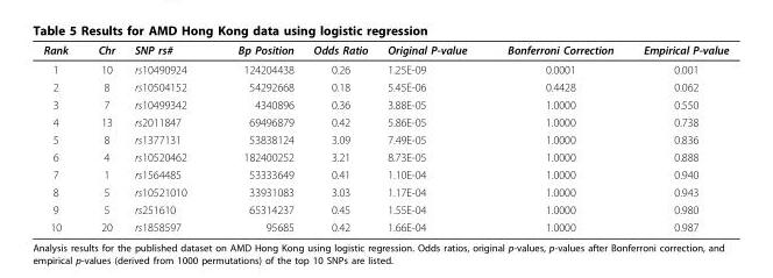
<table><thead><tr><td>Rank</td><td>Chr</td><td>SNP rs#</td><td>Bp Position</td><td>Odds Ratio</td><td>Original P-value</td><td>Bonferroni Correction</td><td>Empirical P-value</td></tr></thead><tbody><tr><td>1</td><td>10</td><td>rs10490924</td><td>124204438</td><td>0.26</td><td>1.25E-09</td><td>0.0001</td><td>0.001</td></tr><tr><td>2</td><td>8</td><td>rs10504152</td><td>54292668</td><td>0.18</td><td>5.45E-06</td><td>0.4428</td><td>0.062</td></tr><tr><td>3</td><td>7</td><td>rs10499342</td><td>4340896</td><td>0.36</td><td>3.88E-05</td><td>1.0000</td><td>0.550</td></tr><tr><td>4</td><td>13</td><td>rs2011847</td><td>69496879</td><td>0.42</td><td>5.86E-05</td><td>1.0000</td><td>0.738</td></tr><tr><td>5</td><td>8</td><td>rs1377131</td><td>53838124</td><td>3.09</td><td>7.49E-05</td><td>1.0000</td><td>0.836</td></tr><tr><td>6</td><td>4</td><td>rs10520462</td><td>182400252</td><td>3.21</td><td>8.73E-05</td><td>1.0000</td><td>0.888</td></tr><tr><td>7</td><td>1</td><td>rs1564485</td><td>53333649</td><td>0.41</td><td>1.10E-04</td><td>1.0000</td><td>0.940</td></tr><tr><td>8</td><td>5</td><td>rs10521010</td><td>33931083</td><td>3.03</td><td>1.17E-04</td><td>1.0000</td><td>0.943</td></tr><tr><td>9</td><td>5</td><td>rs251610</td><td>65314237</td><td>0.45</td><td>1.55E-04</td><td>1.0000</td><td>0.980</td></tr><tr><td>10</td><td>20</td><td>rs1858597</td><td>95685</td><td>0.42</td><td>1.66E-04</td><td>1.0000</td><td>0.987</td></tr></tbody></table>